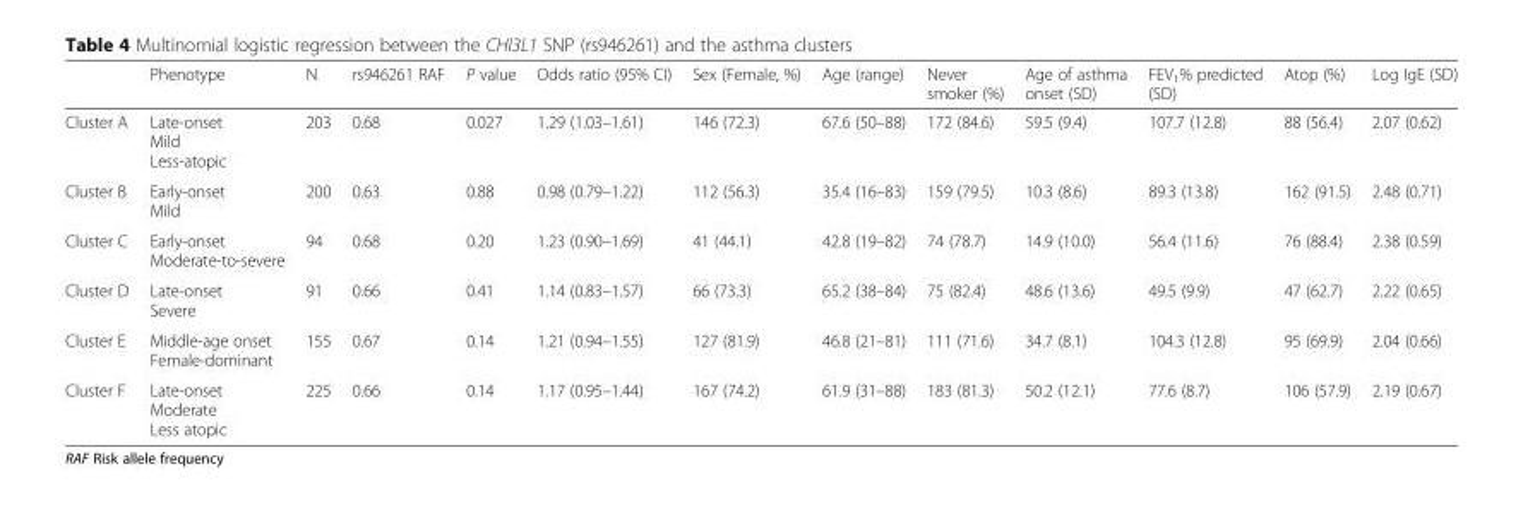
<table><thead><tr><td></td><td>Phenotype</td><td>N</td><td>rs946261 RAF</td><td>P value</td><td>Odds ratio (95% CI)</td><td>Sex (Female, %)</td><td>Age (range)</td><td>Never smoker (%)</td><td>Age of asthma onset (SD)</td><td>FEV<sub>1</sub>% predicted (SD)</td><td>Atop (%)</td><td>Log IgE (SD)</td></tr></thead><tbody><tr><td>Cluster A</td><td>Late-onset Mild Less-atopic</td><td>203</td><td>0.68</td><td>0.027</td><td>1.29 (1.03–1.61)</td><td>146 (72.3)</td><td>67.6 (50–88)</td><td>172 (84.6)</td><td>59.5 (9.4)</td><td>107.7 (12.8)</td><td>88 (56.4)</td><td>2.07 (0.62)</td></tr><tr><td>Cluster B</td><td>Early-onset Mild</td><td>200</td><td>0.63</td><td>0.88</td><td>0.98 (0.79–1.22)</td><td>112 (56.3)</td><td>35.4 (16–83)</td><td>159 (79.5)</td><td>10.3 (8.6)</td><td>89.3 (13.8)</td><td>162 (91.5)</td><td>2.48 (0.71)</td></tr><tr><td>Cluster C</td><td>Early-onset Moderate-to-severe</td><td>94</td><td>0.68</td><td>0.20</td><td>1.23 (0.90–1.69)</td><td>41 (44.1)</td><td>42.8 (19–82)</td><td>74 (78.7)</td><td>14.9 (10.0)</td><td>56.4 (11.6)</td><td>76 (88.4)</td><td>2.38 (0.59)</td></tr><tr><td>Cluster D</td><td>Late-onset Severe</td><td>91</td><td>0.66</td><td>0.41</td><td>1.14 (0.83–1.57)</td><td>66 (73.3)</td><td>65.2 (38–84)</td><td>75 (82.4)</td><td>48.6 (13.6)</td><td>49.5 (9.9)</td><td>47 (62.7)</td><td>2.22 (0.65)</td></tr><tr><td>Cluster E</td><td>Middle-age onset Female-dominant</td><td>155</td><td>0.67</td><td>0.14</td><td>1.21 (0.94–1.55)</td><td>127 (81.9)</td><td>46.8 (21–81)</td><td>111 (71.6)</td><td>34.7 (8.1)</td><td>104.3 (12.8)</td><td>95 (69.9)</td><td>2.04 (0.66)</td></tr><tr><td>Cluster F</td><td>Late-onset Moderate Less atopic</td><td>225</td><td>0.66</td><td>0.14</td><td>1.17 (0.95–1.44)</td><td>167 (74.2)</td><td>61.9 (31–88)</td><td>183 (81.3)</td><td>50.2 (12.1)</td><td>77.6 (8.7)</td><td>106 (57.9)</td><td>2.19 (0.67)</td></tr></tbody></table>